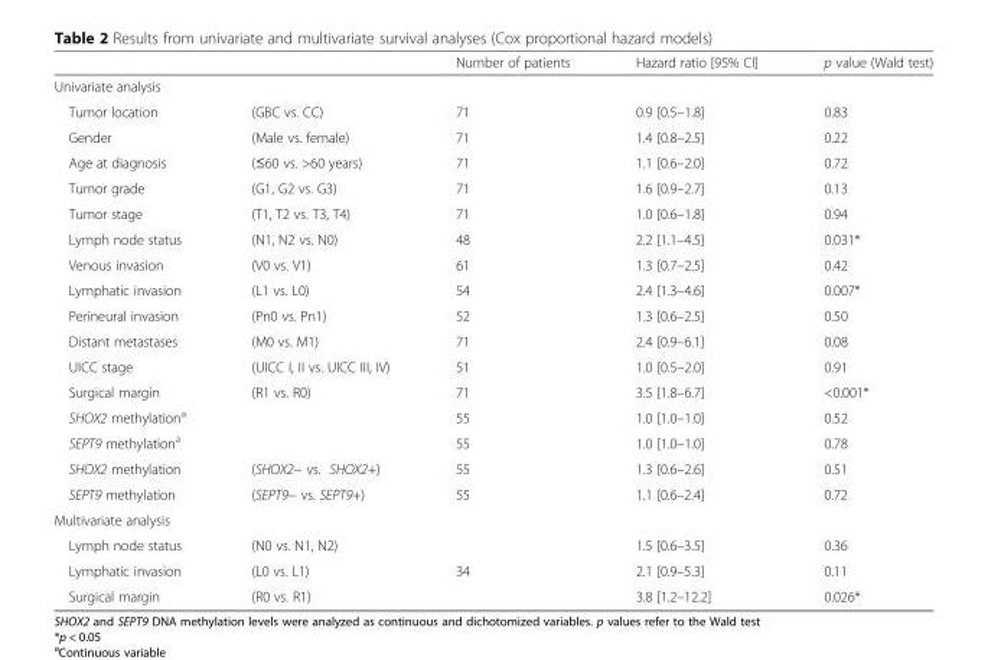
<table><thead><tr><td></td><td></td><td>Number of patients</td><td>Hazard ratio [95% CI]</td><td>p value (Wald test)</td></tr></thead><tbody><tr><td colspan="5">Univariate analysis</td></tr><tr><td>Tumor location</td><td>(GBC vs. CC)</td><td>71</td><td>0.9 [0.5–1.8]</td><td>0.83</td></tr><tr><td>Gender</td><td>(Male vs. female)</td><td>71</td><td>1.4 [0.8–2.5]</td><td>0.22</td></tr><tr><td>Age at diagnosis</td><td>(≤60 vs. &gt;60 years)</td><td>71</td><td>1.1 [0.6–2.0]</td><td>0.72</td></tr><tr><td>Tumor grade</td><td>(G1, G2 vs. G3)</td><td>71</td><td>1.6 [0.9–2.7]</td><td>0.13</td></tr><tr><td>Tumor stage</td><td>(T1, T2 vs. T3, T4)</td><td>71</td><td>1.0 [0.6–1.8]</td><td>0.94</td></tr><tr><td>Lymph node status</td><td>(N1, N2 vs. N0)</td><td>48</td><td>2.2 [1.1–4.5]</td><td>0.031*</td></tr><tr><td>Venous invasion</td><td>(V0 vs. V1)</td><td>61</td><td>1.3 [0.7–2.5]</td><td>0.42</td></tr><tr><td>Lymphatic invasion</td><td>(L1 vs. L0)</td><td>54</td><td>2.4 [1.3–4.6]</td><td>0.007*</td></tr><tr><td>Perineural invasion</td><td>(Pn0 vs. Pn1)</td><td>52</td><td>1.3 [0.6–2.5]</td><td>0.50</td></tr><tr><td>Distant metastases</td><td>(M0 vs. M1)</td><td>71</td><td>2.4 [0.9–6.1]</td><td>0.08</td></tr><tr><td>UICC stage</td><td>(UICC I, II vs. UICC III, IV)</td><td>51</td><td>1.0 [0.5–2.0]</td><td>0.91</td></tr><tr><td>Surgical margin</td><td>(R1 vs. R0)</td><td>71</td><td>3.5 [1.8–6.7]</td><td>&lt;0.001*</td></tr><tr><td>SHOX2 methylation<sup>a</sup></td><td></td><td>55</td><td>1.0 [1.0–1.0]</td><td>0.52</td></tr><tr><td>SEPT9 methylation<sup>a</sup></td><td></td><td>55</td><td>1.0 [1.0–1.0]</td><td>0.78</td></tr><tr><td>SHOX2 methylation</td><td>(SHOX2− vs. SHOX2+)</td><td>55</td><td>1.3 [0.6–2.6]</td><td>0.51</td></tr><tr><td>SEPT9 methylation</td><td>(SEPT9− vs. SEPT9+)</td><td>55</td><td>1.1 [0.6–2.4]</td><td>0.72</td></tr><tr><td colspan="5">Multivariate analysis</td></tr><tr><td>Lymph node status</td><td>(N0 vs. N1, N2)</td><td></td><td>1.5 [0.6–3.5]</td><td>0.36</td></tr><tr><td>Lymphatic invasion</td><td>(L0 vs. L1)</td><td>34</td><td>2.1 [0.9–5.3]</td><td>0.11</td></tr><tr><td>Surgical margin</td><td>(R0 vs. R1)</td><td></td><td>3.8 [1.2–12.2]</td><td>0.026*</td></tr></tbody></table>